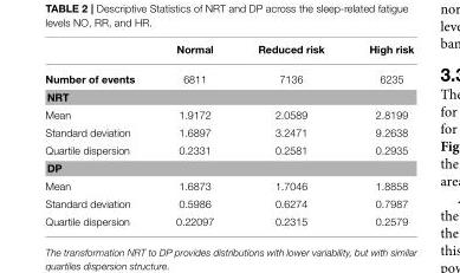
<table><thead><tr><td></td><td>Normal</td><td>Reduced risk</td><td>High risk</td></tr></thead><tbody><tr><td>Number of events</td><td>6811</td><td>7136</td><td>6235</td></tr><tr><td colspan="4">NRT</td></tr><tr><td>Mean</td><td>1.9172</td><td>2.0589</td><td>2.8199</td></tr><tr><td>Standard deviation</td><td>1.6897</td><td>3.2471</td><td>9.2638</td></tr><tr><td>Quartile dispersion</td><td>0.2331</td><td>0.2581</td><td>0.2935</td></tr><tr><td colspan="4">DP</td></tr><tr><td>Mean</td><td>1.6873</td><td>1.7046</td><td>1.8858</td></tr><tr><td>Standard deviation</td><td>0.5986</td><td>0.6274</td><td>0.7987</td></tr><tr><td>Quartile dispersion</td><td>0.22097</td><td>0.2315</td><td>0.2579</td></tr></tbody></table>